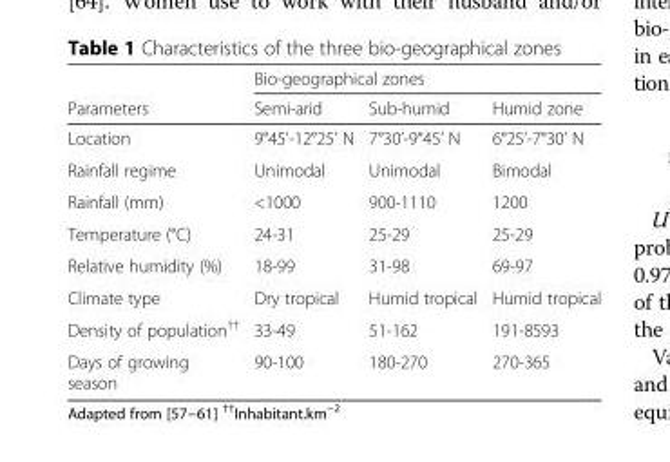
<table><thead><tr><td rowspan="2">Parameters</td><td colspan="3">Bio-geographical zones</td></tr><tr><td>Semi-arid</td><td>Sub-humid</td><td>Humid zone</td></tr></thead><tbody><tr><td>Location</td><td>9°45’-12°25’ N</td><td>7°30’-9°45’ N</td><td>6°25’-7°30’ N</td></tr><tr><td>Rainfall regime</td><td>Unimodal</td><td>Unimodal</td><td>Bimodal</td></tr><tr><td>Rainfall (mm)</td><td>&lt;1000</td><td>900-1110</td><td>1200</td></tr><tr><td>Temperature (°C)</td><td>24-31</td><td>25-29</td><td>25-29</td></tr><tr><td>Relative humidity (%)</td><td>18-99</td><td>31-98</td><td>69-97</td></tr><tr><td>Climate type</td><td>Dry tropical</td><td>Humid tropical</td><td>Humid tropical</td></tr><tr><td>Density of population<sup>††</sup></td><td>33-49</td><td>51-162</td><td>191-8593</td></tr><tr><td>Days of growing season</td><td>90-100</td><td>180-270</td><td>270-365</td></tr></tbody></table>